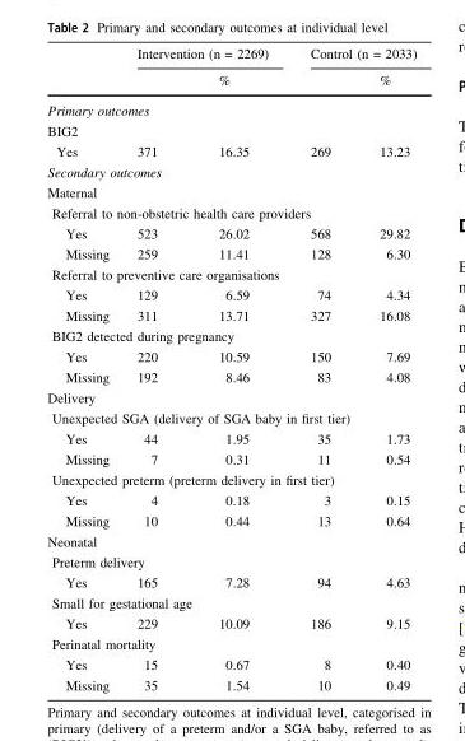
<table><thead><tr><td rowspan="2"></td><td colspan="2">Intervention (n = 2269)</td><td colspan="2">Control (n = 2033)</td></tr><tr><td></td><td>%</td><td></td><td>%</td></tr></thead><tbody><tr><td colspan="5">Primary outcomes</td></tr><tr><td colspan="5">BIG2</td></tr><tr><td>Yes</td><td>371</td><td>16.35</td><td>269</td><td>13.23</td></tr><tr><td colspan="5">Secondary outcomes</td></tr><tr><td colspan="5">Maternal</td></tr><tr><td colspan="5">Referral to non-obstetric health care providers</td></tr><tr><td>Yes</td><td>523</td><td>26.02</td><td>568</td><td>29.82</td></tr><tr><td>Missing</td><td>259</td><td>11.41</td><td>128</td><td>6.30</td></tr><tr><td colspan="5">Referral to preventive care organisations</td></tr><tr><td>Yes</td><td>129</td><td>6.59</td><td>74</td><td>4.34</td></tr><tr><td>Missing</td><td>311</td><td>13.71</td><td>327</td><td>16.08</td></tr><tr><td colspan="5">BIG2 detected during pregnancy</td></tr><tr><td>Yes</td><td>220</td><td>10.59</td><td>150</td><td>7.69</td></tr><tr><td>Missing</td><td>192</td><td>8.46</td><td>83</td><td>4.08</td></tr><tr><td colspan="5">Delivery</td></tr><tr><td colspan="5">Unexpected SGA (delivery of SGA baby in first tier)</td></tr><tr><td>Yes</td><td>44</td><td>1.95</td><td>35</td><td>1.73</td></tr><tr><td>Missing</td><td>7</td><td>0.31</td><td>11</td><td>0.54</td></tr><tr><td colspan="5">Unexpected preterm (preterm delivery in first tier)</td></tr><tr><td>Yes</td><td>4</td><td>0.18</td><td>3</td><td>0.15</td></tr><tr><td>Missing</td><td>10</td><td>0.44</td><td>13</td><td>0.64</td></tr><tr><td colspan="5">Neonatal</td></tr><tr><td colspan="5">Preterm delivery</td></tr><tr><td>Yes</td><td>165</td><td>7.28</td><td>94</td><td>4.63</td></tr><tr><td colspan="5">Small for gestational age</td></tr><tr><td>Yes</td><td>229</td><td>10.09</td><td>186</td><td>9.15</td></tr><tr><td colspan="5">Perinatal mortality</td></tr><tr><td>Yes</td><td>15</td><td>0.67</td><td>8</td><td>0.40</td></tr><tr><td>Missing</td><td>35</td><td>1.54</td><td>10</td><td>0.49</td></tr></tbody></table>